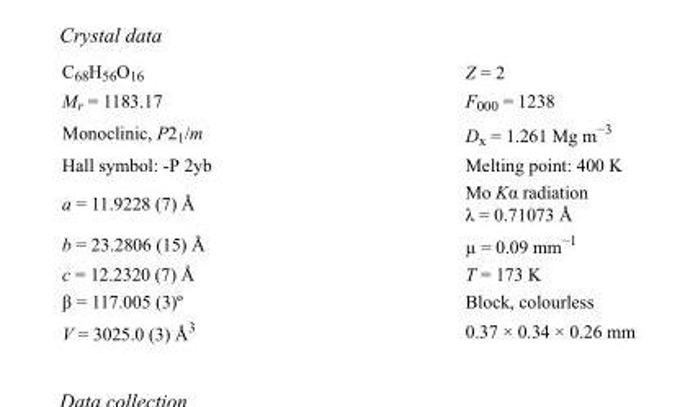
<table><tbody><tr><td>C<sub>68</sub>H<sub>56</sub>O<sub>16</sub></td><td>Z = 2</td></tr><tr><td>M<sub>r</sub> = 1183.17</td><td>F000 = 1238</td></tr><tr><td>Monoclinic, P2<sub>1</sub>/m</td><td>D<sub>x</sub> = 1.261 Mg m<sup>−3</sup></td></tr><tr><td>Hall symbol: -P 2yb</td><td>Melting point: 400 K</td></tr><tr><td>a = 11.9228 (7) Å</td><td>Mo Kα radiation λ = 0.71073 Å</td></tr><tr><td>b = 23.2806 (15) Å</td><td>µ = 0.09 mm<sup>−1</sup></td></tr><tr><td>c = 12.2320 (7) Å</td><td>T = 173 K</td></tr><tr><td>β = 117.005 (3)º</td><td>Block, colourless</td></tr><tr><td>V = 3025.0 (3) Å<sup>3</sup></td><td>0.37 × 0.34 × 0.26 mm</td></tr></tbody></table>